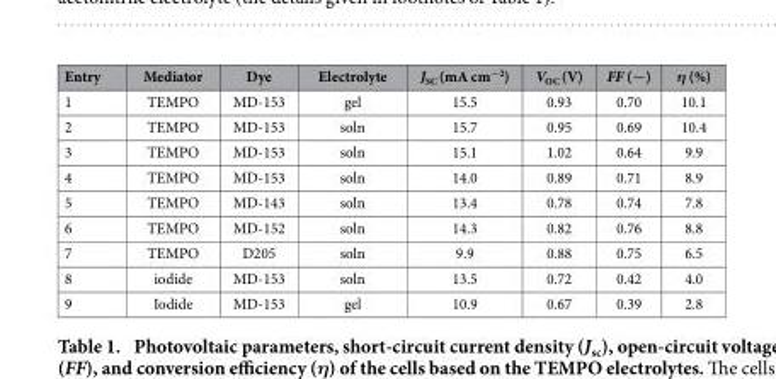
<table><thead><tr><td>Entry</td><td>Mediator</td><td>Dye</td><td>Electrolyte</td><td>J<sub>SC</sub> (mA cm<sup>−2</sup>)</td><td>V<sub>OC</sub> (V)</td><td>FF (−)</td><td>η (%)</td></tr></thead><tbody><tr><td>1</td><td>TEMPO</td><td>MD-153</td><td>gel</td><td>15.5</td><td>0.93</td><td>0.70</td><td>10.1</td></tr><tr><td>2</td><td>TEMPO</td><td>MD-153</td><td>soln</td><td>15.7</td><td>0.95</td><td>0.69</td><td>10.4</td></tr><tr><td>3</td><td>TEMPO</td><td>MD-153</td><td>soln</td><td>15.1</td><td>1.02</td><td>0.64</td><td>9.9</td></tr><tr><td>4</td><td>TEMPO</td><td>MD-153</td><td>soln</td><td>14.0</td><td>0.89</td><td>0.71</td><td>8.9</td></tr><tr><td>5</td><td>TEMPO</td><td>MD-143</td><td>soln</td><td>13.4</td><td>0.78</td><td>0.74</td><td>7.8</td></tr><tr><td>6</td><td>TEMPO</td><td>MD-152</td><td>soln</td><td>14.3</td><td>0.82</td><td>0.76</td><td>8.8</td></tr><tr><td>7</td><td>TEMPO</td><td>D205</td><td>soln</td><td>9.9</td><td>0.88</td><td>0.75</td><td>6.5</td></tr><tr><td>8</td><td>iodide</td><td>MD-153</td><td>soln</td><td>13.5</td><td>0.72</td><td>0.42</td><td>4.0</td></tr><tr><td>9</td><td>Iodide</td><td>MD-153</td><td>gel</td><td>10.9</td><td>0.67</td><td>0.39</td><td>2.8</td></tr></tbody></table>